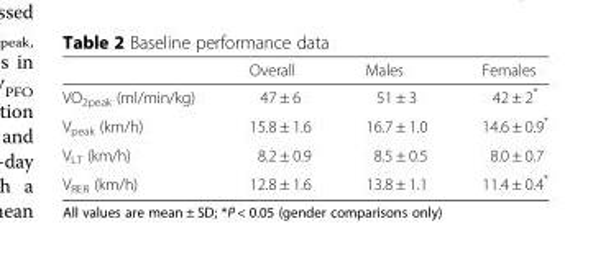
<table><thead><tr><td></td><td>Overall</td><td>Males</td><td>Females</td></tr></thead><tbody><tr><td>VO<sub>2peak</sub> (ml/min/kg)</td><td>47 ± 6</td><td>51 ± 3</td><td>42 ± 2*</td></tr><tr><td>V<sub>peak</sub> (km/h)</td><td>15.8 ± 1.6</td><td>16.7 ± 1.0</td><td>14.6 ± 0.9*</td></tr><tr><td>V<sub>LT</sub> (km/h)</td><td>8.2 ± 0.9</td><td>8.5 ± 0.5</td><td>8.0 ± 0.7</td></tr><tr><td>V<sub>RER</sub> (km/h)</td><td>12.8 ± 1.6</td><td>13.8 ± 1.1</td><td>11.4 ± 0.4*</td></tr></tbody></table>